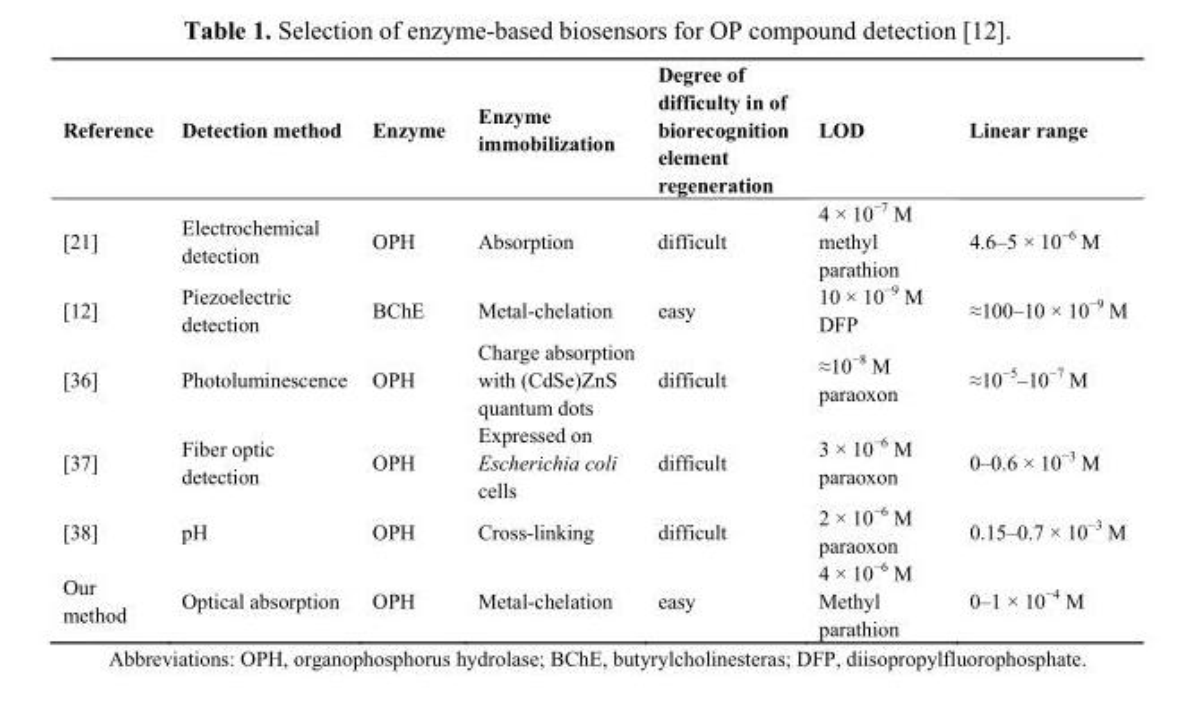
<table><thead><tr><td>Reference</td><td>Detection method</td><td>Enzyme</td><td>Enzyme immobilization</td><td>Degree of difficulty in of biorecognition element regeneration</td><td>LOD</td><td>Linear range</td></tr></thead><tbody><tr><td>[21]</td><td>Electrochemical detection</td><td>OPH</td><td>Absorption</td><td>difficult</td><td>4 × 10<sup>−7</sup> M methyl parathion</td><td>4.6–5 × 10<sup>−6</sup> M</td></tr><tr><td>[12]</td><td>Piezoelectric detection</td><td>BChE</td><td>Metal-chelation</td><td>easy</td><td>10 × 10<sup>−9</sup> M DFP</td><td>≈100–10 × 10<sup>−9</sup> M</td></tr><tr><td>[36]</td><td>Photoluminescence</td><td>OPH</td><td>Charge absorption with (CdSe)ZnS quantum dots</td><td>difficult</td><td>≈10<sup>−8</sup> M paraoxon</td><td>≈10<sup>−5</sup>–10<sup>−7</sup> M</td></tr><tr><td>[37]</td><td>Fiber optic detection</td><td>OPH</td><td>Expressed on Escherichia coli cells</td><td>difficult</td><td>3 × 10<sup>−6</sup> M paraoxon</td><td>0–0.6 × 10<sup>−3</sup> M</td></tr><tr><td>[38]</td><td>pH</td><td>OPH</td><td>Cross-linking</td><td>difficult</td><td>2 × 10<sup>−6</sup> M paraoxon</td><td>0.15–0.7 × 10<sup>−3</sup> M</td></tr><tr><td>Our method</td><td>Optical absorption</td><td>OPH</td><td>Metal-chelation</td><td>easy</td><td>4 × 10<sup>−6</sup> M Methyl parathion</td><td>0–1 × 10<sup>−4</sup> M</td></tr></tbody></table>